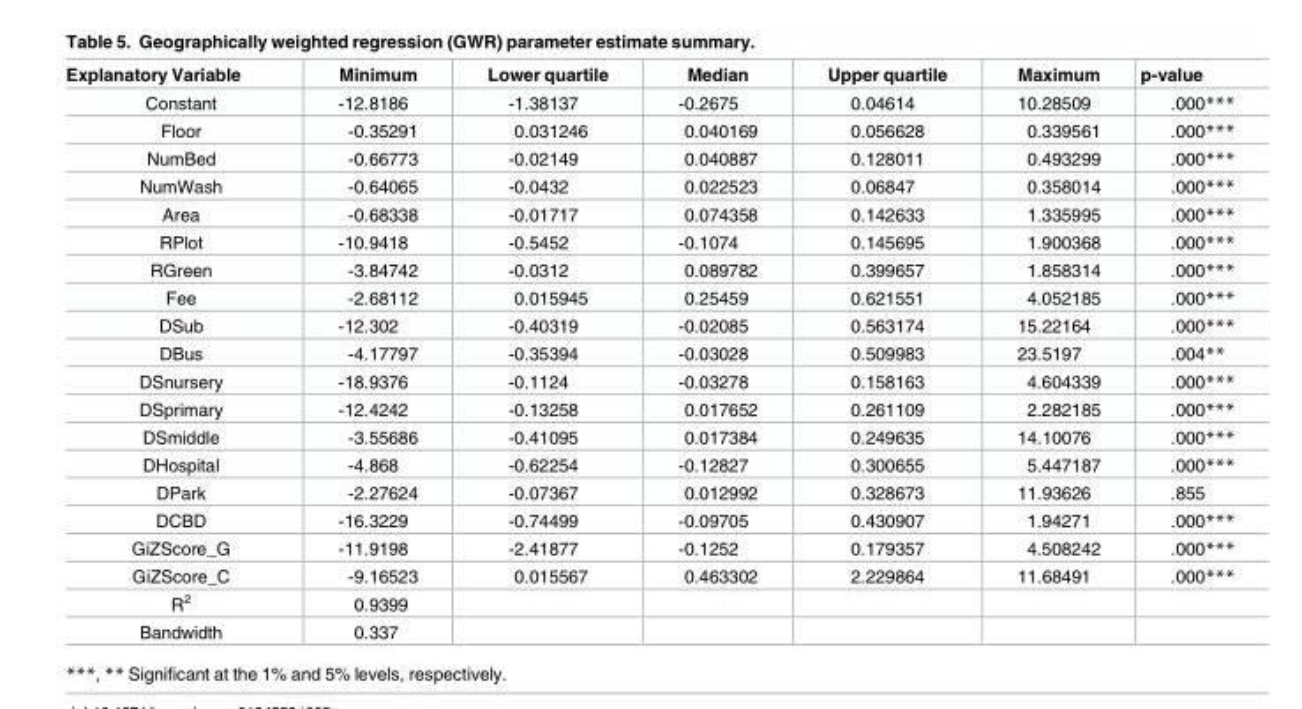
<table><thead><tr><td>Explanatory Variable</td><td>Minimum</td><td>Lower quartile</td><td>Median</td><td>Upper quartile</td><td>Maximum</td><td>p-value</td></tr></thead><tbody><tr><td>Constant</td><td>-12.8186</td><td>-1.38137</td><td>-0.2675</td><td>0.04614</td><td>10.28509</td><td>.000***</td></tr><tr><td>Floor</td><td>-0.35291</td><td>0.031246</td><td>0.040169</td><td>0.056628</td><td>0.339561</td><td>.000***</td></tr><tr><td>NumBed</td><td>-0.66773</td><td>-0.02149</td><td>0.040887</td><td>0.128011</td><td>0.493299</td><td>.000***</td></tr><tr><td>NumWash</td><td>-0.64065</td><td>-0.0432</td><td>0.022523</td><td>0.06847</td><td>0.358014</td><td>.000***</td></tr><tr><td>Area</td><td>-0.68338</td><td>-0.01717</td><td>0.074358</td><td>0.142633</td><td>1.335995</td><td>.000***</td></tr><tr><td>RPlot</td><td>-10.9418</td><td>-0.5452</td><td>-0.1074</td><td>0.145695</td><td>1.900368</td><td>.000***</td></tr><tr><td>RGreen</td><td>-3.84742</td><td>-0.0312</td><td>0.089782</td><td>0.399657</td><td>1.858314</td><td>.000***</td></tr><tr><td>Fee</td><td>-2.68112</td><td>0.015945</td><td>0.25459</td><td>0.621551</td><td>4.052185</td><td>.000***</td></tr><tr><td>DSub</td><td>-12.302</td><td>-0.40319</td><td>-0.02085</td><td>0.563174</td><td>15.22164</td><td>.000***</td></tr><tr><td>DBus</td><td>-4.17797</td><td>-0.35394</td><td>-0.03028</td><td>0.509983</td><td>23.5197</td><td>.004**</td></tr><tr><td>DSnursery</td><td>-18.9376</td><td>-0.1124</td><td>-0.03278</td><td>0.158163</td><td>4.604339</td><td>.000***</td></tr><tr><td>DSprimary</td><td>-12.4242</td><td>-0.13258</td><td>0.017652</td><td>0.261109</td><td>2.282185</td><td>.000***</td></tr><tr><td>DSmiddle</td><td>-3.55686</td><td>-0.41095</td><td>0.017384</td><td>0.249635</td><td>14.10076</td><td>.000***</td></tr><tr><td>DHospital</td><td>-4.868</td><td>-0.62254</td><td>-0.12827</td><td>0.300655</td><td>5.447187</td><td>.000***</td></tr><tr><td>DPark</td><td>-2.27624</td><td>-0.07367</td><td>0.012992</td><td>0.328673</td><td>11.93626</td><td>.855</td></tr><tr><td>DCBD</td><td>-16.3229</td><td>-0.74499</td><td>-0.09705</td><td>0.430907</td><td>1.94271</td><td>.000***</td></tr><tr><td>GiZScore_G</td><td>-11.9198</td><td>-2.41877</td><td>-0.1252</td><td>0.179357</td><td>4.508242</td><td>.000***</td></tr><tr><td>GiZScore_C</td><td>-9.16523</td><td>0.015567</td><td>0.463302</td><td>2.229864</td><td>11.68491</td><td>.000***</td></tr><tr><td>R<sup>2</sup></td><td>0.9399</td><td></td><td></td><td></td><td></td><td></td></tr><tr><td>Bandwidth</td><td>0.337</td><td></td><td></td><td></td><td></td><td></td></tr></tbody></table>